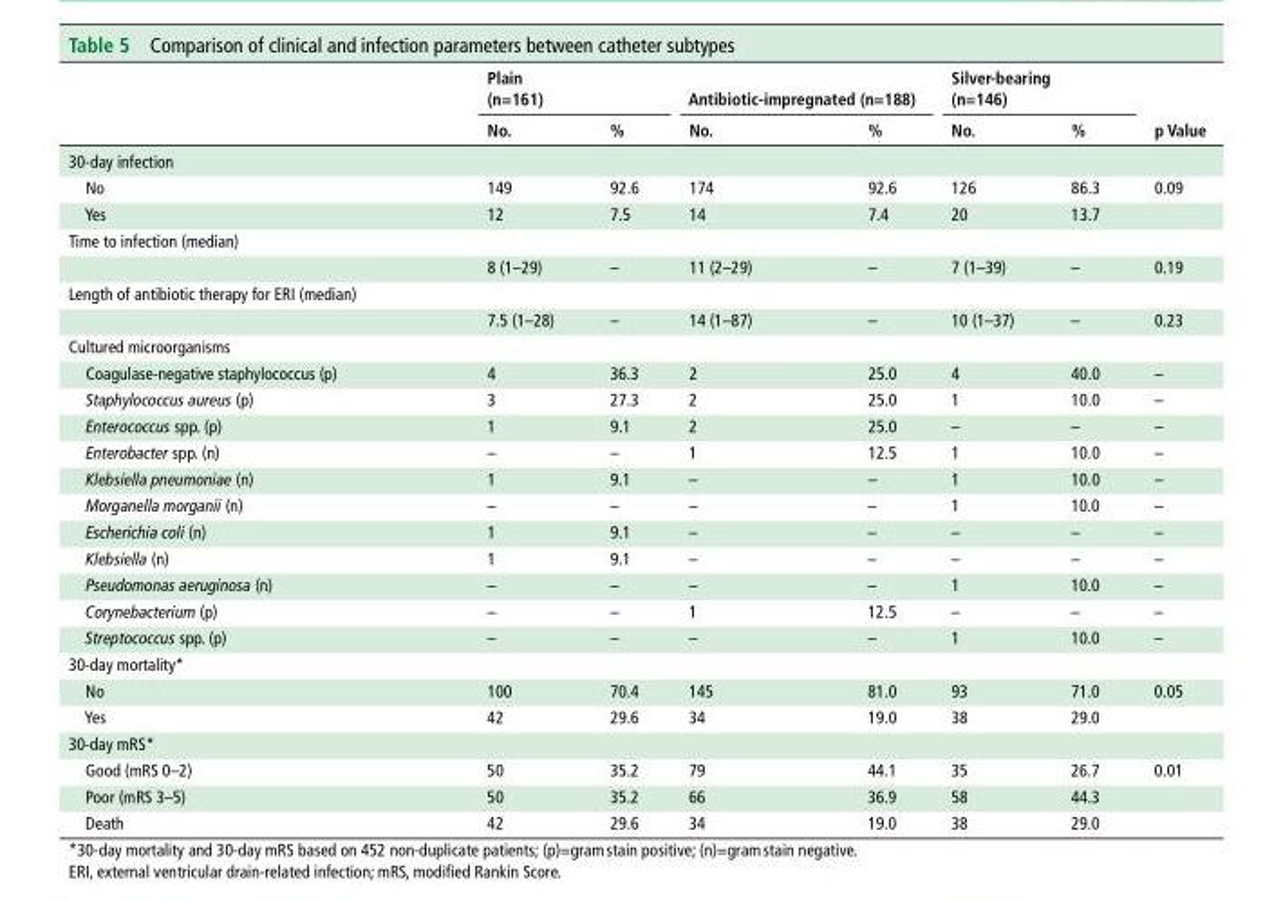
<table><thead><tr><td rowspan="2"></td><td colspan="2">Plain (n=161)</td><td colspan="2">Antibiotic-impregnated (n=188)</td><td colspan="2">silver-bearing (n=146)</td><td rowspan="2">p Value</td></tr><tr><td>No.</td><td>%</td><td>No.</td><td>%</td><td>No.</td><td>%</td></tr></thead><tbody><tr><td colspan="8">30-day infection</td></tr><tr><td>No</td><td>149</td><td>92.6</td><td>174</td><td>92.6</td><td>126</td><td>86.3</td><td>0.09</td></tr><tr><td>Yes</td><td>12</td><td>7.5</td><td>14</td><td>7.4</td><td>20</td><td>13.7</td><td></td></tr><tr><td colspan="8">Time to infection (median)</td></tr><tr><td></td><td>8 (1–29)</td><td>–</td><td>11 (2–29)</td><td>–</td><td>7 (1–39)</td><td>–</td><td>0.19</td></tr><tr><td colspan="8">Length of antibiotic therapy for ERI (median)</td></tr><tr><td></td><td>7.5 (1–28)</td><td>–</td><td>14 (1–87)</td><td>–</td><td>10 (1–37)</td><td>–</td><td>0.23</td></tr><tr><td colspan="8">Cultured microorganisms</td></tr><tr><td>Coagulase-negative staphylococcus (p)</td><td>4</td><td>36.3</td><td>2</td><td>25.0</td><td>4</td><td>40.0</td><td>–</td></tr><tr><td>Staphylococcus aureus (p)</td><td>3</td><td>27.3</td><td>2</td><td>25.0</td><td>1</td><td>10.0</td><td>–</td></tr><tr><td>Enterococcus spp. (p)</td><td>1</td><td>9.1</td><td>2</td><td>25.0</td><td>–</td><td>–</td><td>–</td></tr><tr><td>Enterobacter spp. (n)</td><td>–</td><td>–</td><td>1</td><td>12.5</td><td>1</td><td>10.0</td><td>–</td></tr><tr><td>Klebsiella pneumoniae (n)</td><td>1</td><td>9.1</td><td>–</td><td>–</td><td>1</td><td>10.0</td><td>–</td></tr><tr><td>Morganella morganii (n)</td><td>–</td><td>–</td><td>–</td><td>–</td><td>1</td><td>10.0</td><td>–</td></tr><tr><td>Escherichia coli (n)</td><td>1</td><td>9.1</td><td>–</td><td>–</td><td>–</td><td>–</td><td>–</td></tr><tr><td>Klebsiella (n)</td><td>1</td><td>9.1</td><td>–</td><td>–</td><td>–</td><td>–</td><td>–</td></tr><tr><td>Pseudomonas aeruginosa (n)</td><td>–</td><td>–</td><td>–</td><td>–</td><td>1</td><td>10.0</td><td>–</td></tr><tr><td>Corynebacterium (p)</td><td>–</td><td>–</td><td>1</td><td>12.5</td><td>–</td><td>–</td><td>–</td></tr><tr><td>Streptococcus spp. (p)</td><td>–</td><td>–</td><td>–</td><td>–</td><td>1</td><td>10.0</td><td>–</td></tr><tr><td colspan="8">30-day mortality*</td></tr><tr><td>No</td><td>100</td><td>70.4</td><td>145</td><td>81.0</td><td>93</td><td>71.0</td><td>0.05</td></tr><tr><td>Yes</td><td>42</td><td>29.6</td><td>34</td><td>19.0</td><td>38</td><td>29.0</td><td></td></tr><tr><td colspan="8">30-day mRS*</td></tr><tr><td>Good (mRS 0–2)</td><td>50</td><td>35.2</td><td>79</td><td>44.1</td><td>35</td><td>26.7</td><td>0.01</td></tr><tr><td>Poor (mRS 3–5)</td><td>50</td><td>35.2</td><td>66</td><td>36.9</td><td>58</td><td>44.3</td><td></td></tr><tr><td>Death</td><td>42</td><td>29.6</td><td>34</td><td>19.0</td><td>38</td><td>29.0</td><td></td></tr></tbody></table>